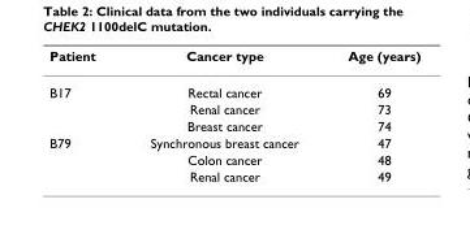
<table><thead><tr><td>Patient</td><td>Cancer type</td><td>Age (years)</td></tr></thead><tbody><tr><td rowspan="3">B17</td><td>Rectal cancer</td><td>69</td></tr><tr><td>Renal cancer</td><td>73</td></tr><tr><td>Breast cancer</td><td>74</td></tr><tr><td rowspan="3">B79</td><td>Synchronous breast cancer</td><td>47</td></tr><tr><td>Colon cancer</td><td>48</td></tr><tr><td>Renal cancer</td><td>49</td></tr></tbody></table>